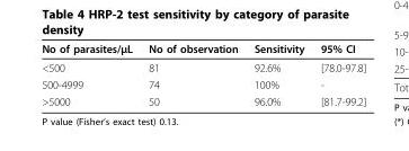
<table><thead><tr><td>No of parasites/μL</td><td>No of observation</td><td>Sensitivity</td><td>95% CI</td></tr></thead><tbody><tr><td>&lt;500</td><td>81</td><td>92.6%</td><td>[78.0-97.8]</td></tr><tr><td>500-4999</td><td>74</td><td>100%</td><td>-</td></tr><tr><td>&gt;5000</td><td>50</td><td>96.0%</td><td>[81.7-99.2]</td></tr></tbody></table>